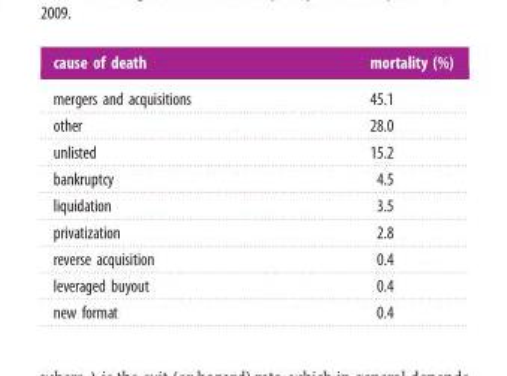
<table><thead><tr><td>cause of death</td><td>mortality (%)</td></tr></thead><tbody><tr><td>mergers and acquisitions</td><td>45.1</td></tr><tr><td>other</td><td>28.0</td></tr><tr><td>unlisted</td><td>15.2</td></tr><tr><td>bankruptcy</td><td>4.5</td></tr><tr><td>liquidation</td><td>3.5</td></tr><tr><td>privatization</td><td>2.8</td></tr><tr><td>reverse acquisition</td><td>0.4</td></tr><tr><td>leveraged buyout</td><td>0.4</td></tr><tr><td>new format</td><td>0.4</td></tr></tbody></table>